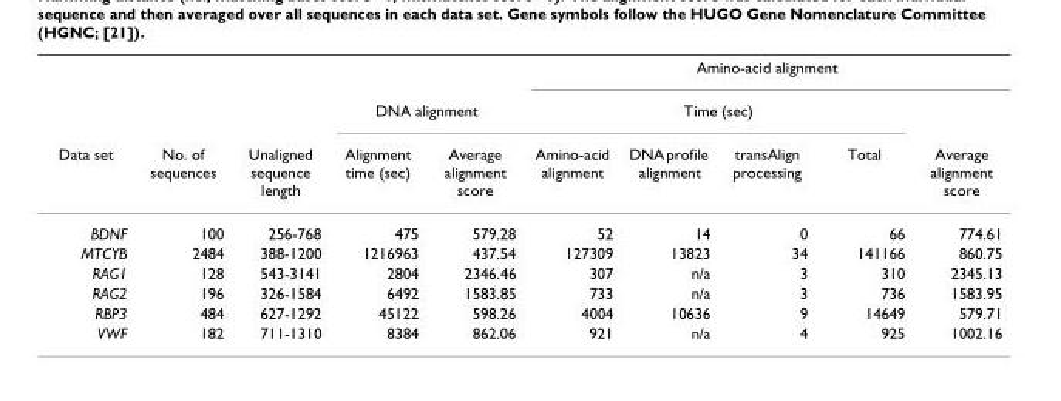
<table><thead><tr><td rowspan="3">Data set</td><td rowspan="3">No. of sequences</td><td rowspan="3">Unaligned sequence length</td><td></td><td></td><td colspan="5">Amino-acid alignment</td></tr><tr><td colspan="2">DNA alignment</td><td colspan="4">Time (sec)</td><td rowspan="2">Average alignment score</td></tr><tr><td>Alignment time (sec)</td><td>Average alignment score</td><td>Amino-acid alignment</td><td>DNA profile alignment</td><td>transAlign processing</td><td>Total</td></tr></thead><tbody><tr><td>BDNF</td><td>100</td><td>256-768</td><td>475</td><td>579.28</td><td>52</td><td>14</td><td>0</td><td>66</td><td>774.61</td></tr><tr><td>MTCYB</td><td>2484</td><td>388-1200</td><td>1216963</td><td>437.54</td><td>127309</td><td>13823</td><td>34</td><td>141166</td><td>860.75</td></tr><tr><td>RAG1</td><td>128</td><td>543-3141</td><td>2804</td><td>2346.46</td><td>307</td><td>n/a</td><td>3</td><td>310</td><td>2345.13</td></tr><tr><td>RAG2</td><td>196</td><td>326-1584</td><td>6492</td><td>1583.85</td><td>733</td><td>n/a</td><td>3</td><td>736</td><td>1583.95</td></tr><tr><td>RBP3</td><td>484</td><td>627-1292</td><td>45122</td><td>598.26</td><td>4004</td><td>10636</td><td>9</td><td>14649</td><td>579.71</td></tr><tr><td>VWF</td><td>182</td><td>711-1310</td><td>8384</td><td>862.06</td><td>921</td><td>n/a</td><td>4</td><td>925</td><td>1002.16</td></tr></tbody></table>